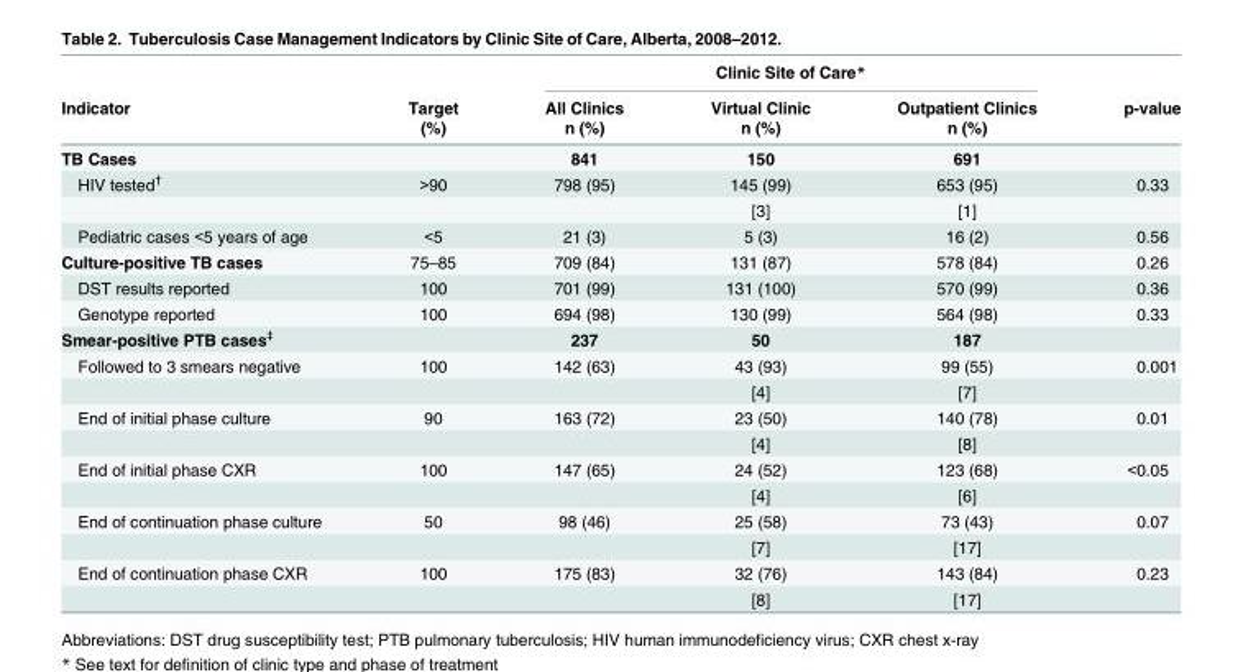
<table><thead><tr><td rowspan="3">Indicator</td><td rowspan="3">Target (%)</td><td colspan="3">Clinic Site of Care*</td><td rowspan="3">p-value</td></tr><tr><td rowspan="2">All Clinics n (%)</td><td rowspan="2">Virtual Clinic n (%)</td><td rowspan="2">Outpatient Clinics n (%)</td></tr><tr></tr></thead><tbody><tr><td>TB Cases</td><td></td><td>841</td><td>150</td><td>691</td><td></td></tr><tr><td rowspan="2">HIV tested<sup>†</sup></td><td>&gt;90</td><td>798 (95)</td><td>145 (99)</td><td>653 (95)</td><td>0.33</td></tr><tr><td></td><td></td><td>[3]</td><td>[1]</td><td></td></tr><tr><td>Pediatric cases &lt;5 years of age</td><td>&lt;5</td><td>21 (3)</td><td>5 (3)</td><td>16 (2)</td><td>0.56</td></tr><tr><td>Culture-positive TB cases</td><td>75–85</td><td>709 (84)</td><td>131 (87)</td><td>578 (84)</td><td>0.26</td></tr><tr><td>DST results reported</td><td>100</td><td>701 (99)</td><td>131 (100)</td><td>570 (99)</td><td>0.36</td></tr><tr><td>Genotype reported</td><td>100</td><td>694 (98)</td><td>130 (99)</td><td>564 (98)</td><td>0.33</td></tr><tr><td>Smear-positive PTB cases<sup>‡</sup></td><td></td><td>237</td><td>50</td><td>187</td><td></td></tr><tr><td rowspan="2">Followed to 3 smears negative</td><td>100</td><td>142 (63)</td><td>43 (93)</td><td>99 (55)</td><td>0.001</td></tr><tr><td></td><td></td><td>[4]</td><td>[7]</td><td></td></tr><tr><td rowspan="2">End of initial phase culture</td><td>90</td><td>163 (72)</td><td>23 (50)</td><td>140 (78)</td><td>0.01</td></tr><tr><td></td><td></td><td>[4]</td><td>[8]</td><td></td></tr><tr><td rowspan="2">End of initial phase CXR</td><td>100</td><td>147 (65)</td><td>24 (52)</td><td>123 (68)</td><td>&lt;0.05</td></tr><tr><td></td><td></td><td>[4]</td><td>[6]</td><td></td></tr><tr><td rowspan="2">End of continuation phase culture</td><td>50</td><td>98 (46)</td><td>25 (58)</td><td>73 (43)</td><td>0.07</td></tr><tr><td></td><td></td><td>[7]</td><td>[17]</td><td></td></tr><tr><td rowspan="2">End of continuation phase CXR</td><td>100</td><td>175 (83)</td><td>32 (76)</td><td>143 (84)</td><td>0.23</td></tr><tr><td></td><td></td><td>[8]</td><td>[17]</td><td></td></tr></tbody></table>